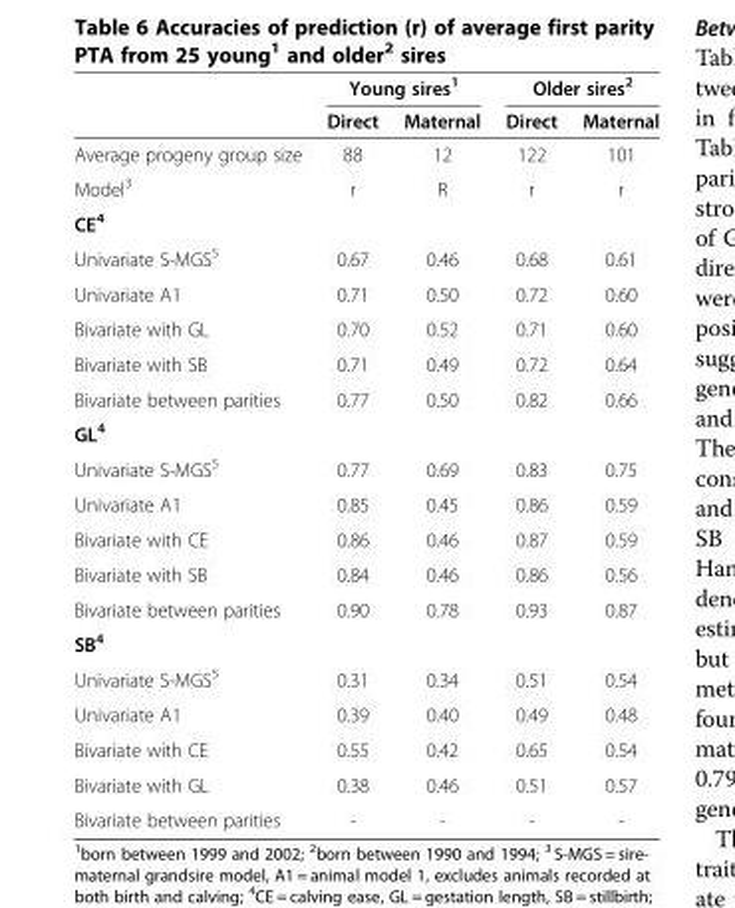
<table><thead><tr><td rowspan="2"></td><td colspan="2">Young sires<sup>1</sup></td><td colspan="2">Older sires<sup>2</sup></td></tr><tr><td>Direct</td><td>Maternal</td><td>Direct</td><td>Maternal</td></tr></thead><tbody><tr><td>Average progeny group size</td><td>88</td><td>12</td><td>122</td><td>101</td></tr><tr><td>Model<sup>3</sup></td><td>r</td><td>R</td><td>r</td><td>r</td></tr><tr><td colspan="5">CE<sup>4</sup></td></tr><tr><td>Univariate S-MGS<sup>5</sup></td><td>0.67</td><td>0.46</td><td>0.68</td><td>0.61</td></tr><tr><td>Univariate A1</td><td>0.71</td><td>0.50</td><td>0.72</td><td>0.60</td></tr><tr><td>Bivariate with GL</td><td>0.70</td><td>0.52</td><td>0.71</td><td>0.60</td></tr><tr><td>Bivariate with SB</td><td>0.71</td><td>0.49</td><td>0.72</td><td>0.64</td></tr><tr><td>Bivariate between parities</td><td>0.77</td><td>0.50</td><td>0.82</td><td>0.66</td></tr><tr><td colspan="5">GL<sup>4</sup></td></tr><tr><td>Univariate S-MGS<sup>5</sup></td><td>0.77</td><td>0.69</td><td>0.83</td><td>0.75</td></tr><tr><td>Univariate A1</td><td>0.85</td><td>0.45</td><td>0.86</td><td>0.59</td></tr><tr><td>Bivariate with CE</td><td>0.86</td><td>0.46</td><td>0.87</td><td>0.59</td></tr><tr><td>Bivariate with SB</td><td>0.84</td><td>0.46</td><td>0.86</td><td>0.56</td></tr><tr><td>Bivariate between parities</td><td>0.90</td><td>0.78</td><td>0.93</td><td>0.87</td></tr><tr><td colspan="5">SB<sup>4</sup></td></tr><tr><td>Univariate S-MGS<sup>5</sup></td><td>0.31</td><td>0.34</td><td>0.51</td><td>0.54</td></tr><tr><td>Univariate A1</td><td>0.39</td><td>0.40</td><td>0.49</td><td>0.48</td></tr><tr><td>Bivariate with CE</td><td>0.55</td><td>0.42</td><td>0.65</td><td>0.54</td></tr><tr><td>Bivariate with GL</td><td>0.38</td><td>0.46</td><td>0.51</td><td>0.57</td></tr><tr><td>Bivariate between parities</td><td>-</td><td>-</td><td>-</td><td>-</td></tr></tbody></table>